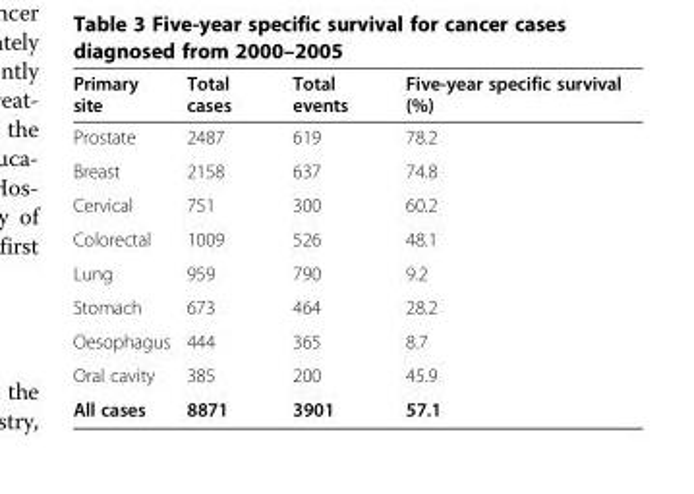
<table><thead><tr><td>Primary site</td><td>Total cases</td><td>Total events</td><td>Five-year specific survival (%)</td></tr></thead><tbody><tr><td>Prostate</td><td>2487</td><td>619</td><td>78.2</td></tr><tr><td>Breast</td><td>2158</td><td>637</td><td>74.8</td></tr><tr><td>Cervical</td><td>751</td><td>300</td><td>60.2</td></tr><tr><td>Colorectal</td><td>1009</td><td>526</td><td>48.1</td></tr><tr><td>Lung</td><td>959</td><td>790</td><td>9.2</td></tr><tr><td>Stomach</td><td>673</td><td>464</td><td>28.2</td></tr><tr><td>Oesophagus</td><td>444</td><td>365</td><td>8.7</td></tr><tr><td>Oral cavity</td><td>385</td><td>200</td><td>45.9</td></tr><tr><td>All cases</td><td>8871</td><td>3901</td><td>57.1</td></tr></tbody></table>